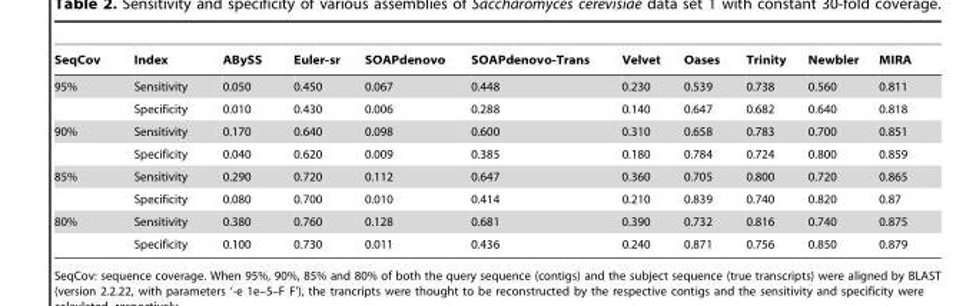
<table><thead><tr><td>SeqCov</td><td>Index</td><td>ABySS</td><td>Euler-sr</td><td>SOAPdenovo</td><td>SOAPdenovo-Trans</td><td>Velvet</td><td>Oases</td><td>Trinity</td><td>Newbler</td><td>MIRA</td></tr></thead><tbody><tr><td rowspan="2">95%</td><td>Sensitivity</td><td>0.050</td><td>0.450</td><td>0.067</td><td>0.448</td><td>0.230</td><td>0.539</td><td>0.738</td><td>0.560</td><td>0.811</td></tr><tr><td>Specificity</td><td>0.010</td><td>0.430</td><td>0.006</td><td>0.288</td><td>0.140</td><td>0.647</td><td>0.682</td><td>0.640</td><td>0.818</td></tr><tr><td rowspan="2">90%</td><td>Sensitivity</td><td>0.170</td><td>0.640</td><td>0.098</td><td>0.600</td><td>0.310</td><td>0.658</td><td>0.783</td><td>0.700</td><td>0.851</td></tr><tr><td>Specificity</td><td>0.040</td><td>0.620</td><td>0.009</td><td>0.385</td><td>0.180</td><td>0.784</td><td>0.724</td><td>0.800</td><td>0.859</td></tr><tr><td rowspan="2">85%</td><td>Sensitivity</td><td>0.290</td><td>0.720</td><td>0.112</td><td>0.647</td><td>0.360</td><td>0.705</td><td>0.800</td><td>0.720</td><td>0.865</td></tr><tr><td>Specificity</td><td>0.080</td><td>0.700</td><td>0.010</td><td>0.414</td><td>0.210</td><td>0.839</td><td>0.740</td><td>0.820</td><td>0.87</td></tr><tr><td rowspan="2">80%</td><td>Sensitivity</td><td>0.380</td><td>0.760</td><td>0.128</td><td>0.681</td><td>0.390</td><td>0.732</td><td>0.816</td><td>0.740</td><td>0.875</td></tr><tr><td>Specificity</td><td>0.100</td><td>0.730</td><td>0.011</td><td>0.436</td><td>0.240</td><td>0.871</td><td>0.756</td><td>0.850</td><td>0.879</td></tr></tbody></table>